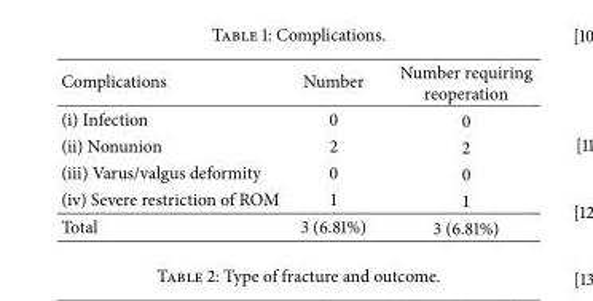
<table><thead><tr><td>Complications</td><td>Number</td><td>Number requiring reoperation</td></tr></thead><tbody><tr><td>(i) Infection</td><td>0</td><td>0</td></tr><tr><td>(ii) Nonunion</td><td>2</td><td>2</td></tr><tr><td>(iii) Varus/valgus deformity</td><td>0</td><td>0</td></tr><tr><td>(iv) Severe restriction of ROM</td><td>1</td><td>1</td></tr><tr><td>Total</td><td>3 (6.81%)</td><td>3 (6.81%)</td></tr></tbody></table>